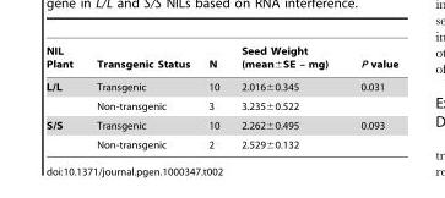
<table><thead><tr><td>NIL Plant</td><td>Transgenic Status</td><td>N</td><td>Seed Weight (mean±SE – mg)</td><td>P value</td></tr></thead><tbody><tr><td rowspan="2">L/L</td><td>Transgenic</td><td>10</td><td>2.016±0.345</td><td>0.031</td></tr><tr><td>Non-transgenic</td><td>3</td><td>3.235±0.522</td><td></td></tr><tr><td rowspan="2">S/S</td><td>Transgenic</td><td>10</td><td>2.262±0.495</td><td>0.093</td></tr><tr><td>Non-transgenic</td><td>2</td><td>2.529±0.132</td><td></td></tr></tbody></table>